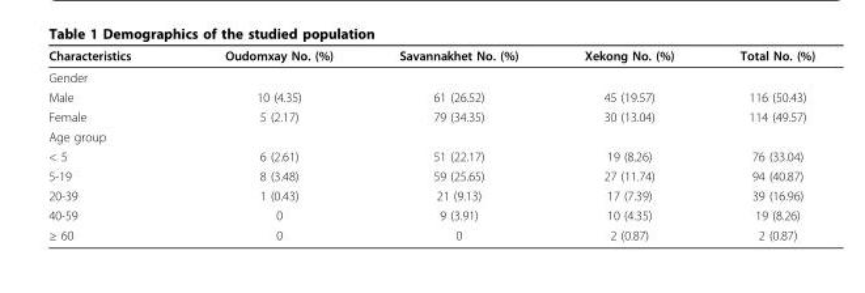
<table><thead><tr><td>Characteristics</td><td>Oudomxay No. (%)</td><td>Savannakhet No. (%)</td><td>Xekong No. (%)</td><td>Total No. (%)</td></tr></thead><tbody><tr><td colspan="5">Gender</td></tr><tr><td>Male</td><td>10 (4.35)</td><td>61 (26.52)</td><td>45 (19.57)</td><td>116 (50.43)</td></tr><tr><td>Female</td><td>5 (2.17)</td><td>79 (34.35)</td><td>30 (13.04)</td><td>114 (49.57)</td></tr><tr><td colspan="5">Age group</td></tr><tr><td>&lt; 5</td><td>6 (2.61)</td><td>51 (22.17)</td><td>19 (8.26)</td><td>76 (33.04)</td></tr><tr><td>5-19</td><td>8 (3.48)</td><td>59 (25.65)</td><td>27 (11.74)</td><td>94 (40.87)</td></tr><tr><td>20-39</td><td>1 (0.43)</td><td>21 (9.13)</td><td>17 (7.39)</td><td>39 (16.96)</td></tr><tr><td>40-59</td><td>0</td><td>9 (3.91)</td><td>10 (4.35)</td><td>19 (8.26)</td></tr><tr><td>≥ 60</td><td>0</td><td>0</td><td>2 (0.87)</td><td>2 (0.87)</td></tr></tbody></table>